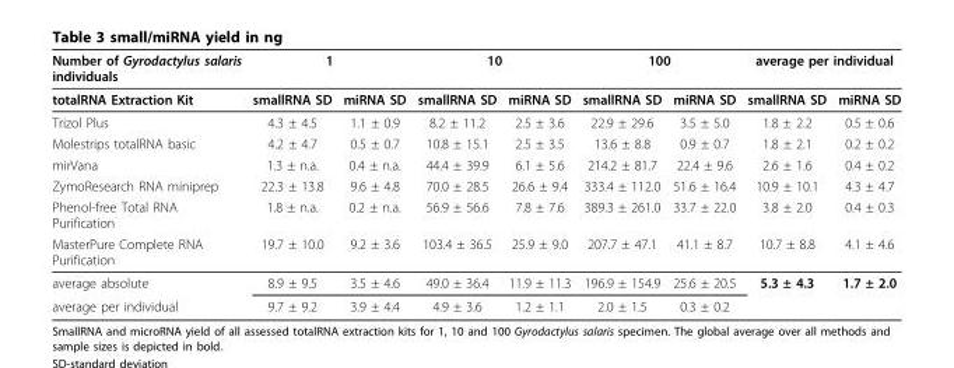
<table><thead><tr><td rowspan="2">Number of Gyrodactylus salaris individuals totalRNA Extraction Kit</td><td colspan="2">1</td><td colspan="2">10</td><td colspan="2">100</td><td colspan="2">average per individual</td></tr><tr><td>smallRNA SD</td><td>miRNA SD</td><td>smallRNA SD</td><td>miRNA SD</td><td>smallRNA SD</td><td>miRNA SD</td><td>smallRNA SD</td><td>miRNA SD</td></tr></thead><tbody><tr><td>Trizol Plus</td><td>4.3 ± 4.5</td><td>1.1 ± 0.9</td><td>8.2 ± 11.2</td><td>2.5 ± 3.6</td><td>22.9 ± 29.6</td><td>3.5 ± 5.0</td><td>1.8 ± 2.2</td><td>0.5 ± 0.6</td></tr><tr><td>Molestrips totalRNA basic</td><td>4.2 ± 4.7</td><td>0.5 ± 0.7</td><td>10.8 ± 15.1</td><td>2.5 ± 3.5</td><td>13.6 ± 8.8</td><td>0.9 ± 0.7</td><td>1.8 ± 2.1</td><td>0.2 ± 0.2</td></tr><tr><td>mirVana</td><td>1.3 ± n.a.</td><td>0.4 ± n.a.</td><td>44.4 ± 39.9</td><td>6.1 ± 5.6</td><td>214.2 ± 81.7</td><td>22.4 ± 9.6</td><td>2.6 ± 1.6</td><td>0.4 ± 0.2</td></tr><tr><td>ZymoResearch RNA miniprep</td><td>22.3 ± 13.8</td><td>9.6 ± 4.8</td><td>70.0 ± 28.5</td><td>26.6 ± 9.4</td><td>333.4 ± 112.0</td><td>51.6 ± 16.4</td><td>10.9 ± 10.1</td><td>4.3 ± 4.7</td></tr><tr><td>Phenol-free Total RNA Purification</td><td>1.8 ± n.a.</td><td>0.2 ± n.a.</td><td>56.9 ± 56.6</td><td>7.8 ± 7.6</td><td>389.3 ± 261.0</td><td>33.7 ± 22.0</td><td>3.8 ± 2.0</td><td>0.4 ± 0.3</td></tr><tr><td>MasterPure Complete RNA Purification</td><td>19.7 ± 10.0</td><td>9.2 ± 3.6</td><td>103.4 ± 36.5</td><td>25.9 ± 9.0</td><td>207.7 ± 47.1</td><td>41.1 ± 8.7</td><td>10.7 ± 8.8</td><td>4.1 ± 4.6</td></tr><tr><td>average absolute</td><td>8.9 ± 9.5</td><td>3.5 ± 4.6</td><td>49.0 ± 36.4</td><td>11.9 ± 11.3</td><td>196.9 ± 154.9</td><td>25.6 ± 20.5</td><td>5.3 ± 4.3</td><td>1.7 ± 2.0</td></tr><tr><td>average per individual</td><td>9.7 ± 9.2</td><td>3.9 ± 4.4</td><td>4.9 ± 3.6</td><td>1.2 ± 1.1</td><td>2.0 ± 1.5</td><td>0.3 ± 0.2</td><td></td><td></td></tr></tbody></table>